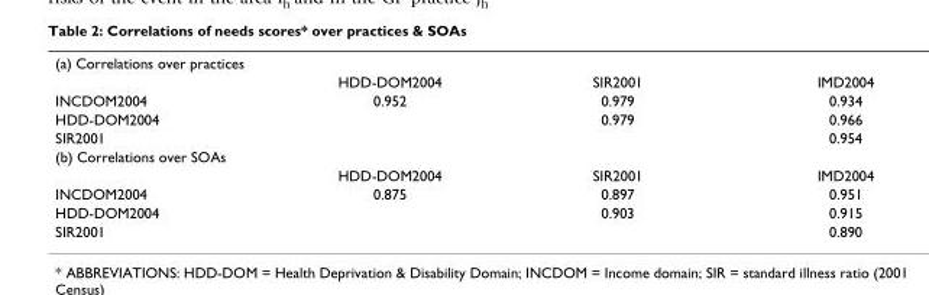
<table><tbody><tr><td colspan="4">(a) Correlations over practices</td></tr><tr><td></td><td>HDD-DOM2004</td><td>SIR2001</td><td>IMD2004</td></tr><tr><td>INCDOM2004</td><td>0.952</td><td>0.979</td><td>0.934</td></tr><tr><td>HDD-DOM2004</td><td></td><td>0.979</td><td>0.966</td></tr><tr><td>SIR2001</td><td></td><td></td><td>0.954</td></tr><tr><td colspan="4">(b) Correlations over SOAs</td></tr><tr><td></td><td>HDD-DOM2004</td><td>SIR2001</td><td>IMD2004</td></tr><tr><td>INCDOM2004</td><td>0.875</td><td>0.897</td><td>0.951</td></tr><tr><td>HDD-DOM2004</td><td></td><td>0.903</td><td>0.915</td></tr><tr><td>SIR2001</td><td></td><td></td><td>0.890</td></tr></tbody></table>